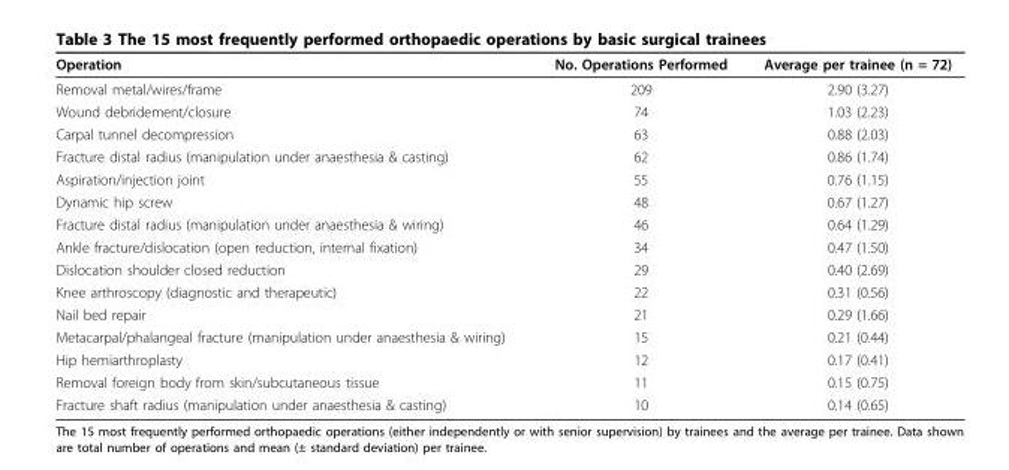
<table><thead><tr><td>Operation</td><td>No. Operations Performed</td><td>Average per trainee (n = 72)</td></tr></thead><tbody><tr><td>Removal metal/wires/frame</td><td>209</td><td>2.90 (3.27)</td></tr><tr><td>Wound debridement/closure</td><td>74</td><td>1.03 (2.23)</td></tr><tr><td>Carpal tunnel decompression</td><td>63</td><td>0.88 (2.03)</td></tr><tr><td>Fracture distal radius (manipulation under anaesthesia &amp; casting)</td><td>62</td><td>0.86 (1.74)</td></tr><tr><td>Aspiration/injection joint</td><td>55</td><td>0.76 (1.15)</td></tr><tr><td>Dynamic hip screw</td><td>48</td><td>0.67 (1.27)</td></tr><tr><td>Fracture distal radius (manipulation under anaesthesia &amp; wiring)</td><td>46</td><td>0.64 (1.29)</td></tr><tr><td>Ankle fracture/dislocation (open reduction, internal fixation)</td><td>34</td><td>0.47 (1.50)</td></tr><tr><td>Dislocation shoulder closed reduction</td><td>29</td><td>0.40 (2.69)</td></tr><tr><td>Knee arthroscopy (diagnostic and therapeutic)</td><td>22</td><td>0.31 (0.56)</td></tr><tr><td>Nail bed repair</td><td>21</td><td>0.29 (1.66)</td></tr><tr><td>Metacarpal/phalangeal fracture (manipulation under anaesthesia &amp; wiring)</td><td>15</td><td>0.21 (0.44)</td></tr><tr><td>Hip hemiarthroplasty</td><td>12</td><td>0.17 (0.41)</td></tr><tr><td>Removal foreign body from skin/subcutaneous tissue</td><td>11</td><td>0.15 (0.75)</td></tr><tr><td>Fracture shaft radius (manipulation under anaesthesia &amp; casting)</td><td>10</td><td>0.14 (0.65)</td></tr></tbody></table>